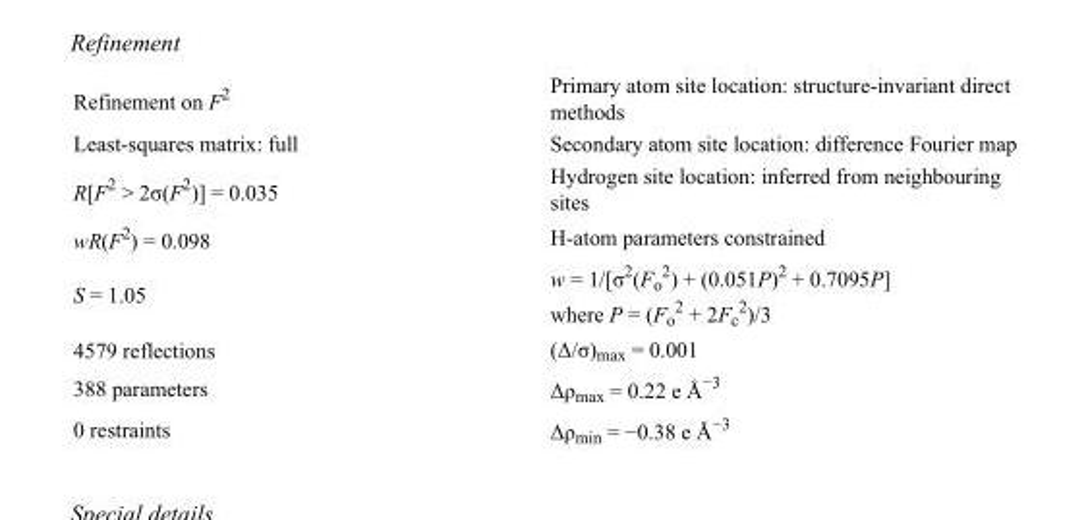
<table><tbody><tr><td>Refinement on F<sup>2</sup></td><td>Primary atom site location: structure-invariant direct methods</td></tr><tr><td>Least-squares matrix: full</td><td>Secondary atom site location: difference Fourier map</td></tr><tr><td>R[F<sup>2</sup> &gt; 2σ(F<sup>2</sup>)] = 0.035</td><td>Hydrogen site location: inferred from neighbouring sites</td></tr><tr><td>wR(F<sup>2</sup>) = 0.098</td><td>H-atom parameters constrained</td></tr><tr><td>S = 1.05</td><td>w = 1/[σ<sup>2</sup>(F<sub>o</sub> <sup>2</sup>) + (0.051P)<sup>2</sup> + 0.7095P] where P = (F<sub>o</sub> <sup>2</sup> + 2F<sub>c</sub> <sup>2</sup>)/3</td></tr><tr><td>4579 reflections</td><td>(Δ/σ)<sub>max</sub> = 0.001</td></tr><tr><td>388 parameters</td><td>Δρ<sub>max</sub> = 0.22 e Å<sup>−3</sup></td></tr><tr><td>0 restraints</td><td>Δρ<sub>min</sub> = −0.38 e Å<sup>−3</sup></td></tr></tbody></table>